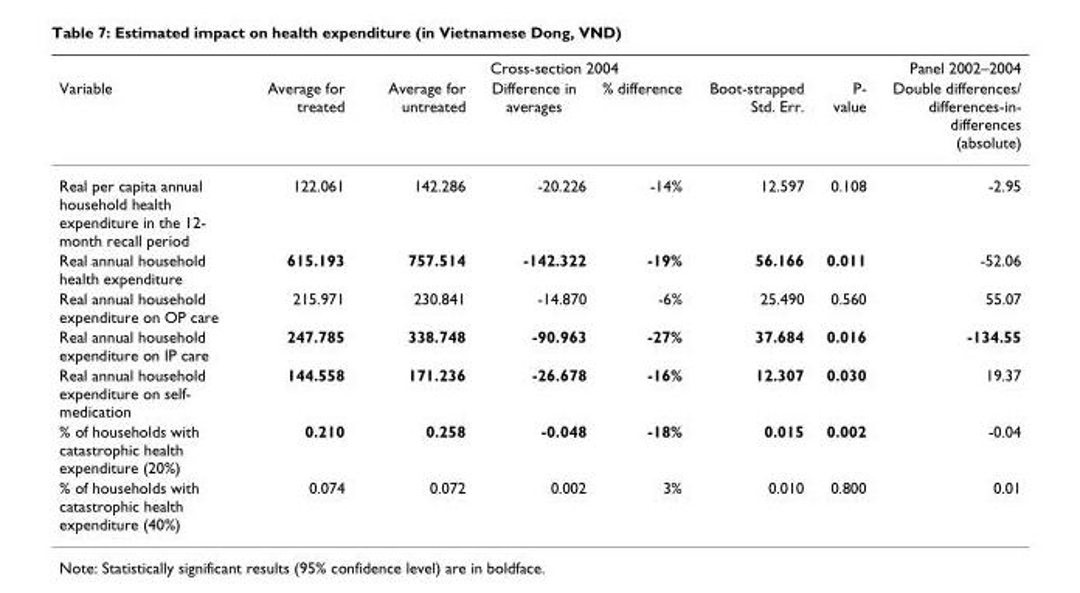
<table><thead><tr><td rowspan="2">Variable</td><td colspan="6">Cross-section 2004</td><td rowspan="2">Panel 2002–2004 Double differences/ differences-in- differences (absolute)</td></tr><tr><td>Average for treated</td><td>Average for untreated</td><td>Difference in averages</td><td>% difference</td><td>Boot-strapped Std. Err.</td><td>P- value</td></tr></thead><tbody><tr><td>Real per capita annual household health expenditure in the 12- month recall period</td><td>122.061</td><td>142.286</td><td>-20.226</td><td>-14%</td><td>12.597</td><td>0.108</td><td>-2.95</td></tr><tr><td>Real annual household health expenditure</td><td>615.193</td><td>757.514</td><td>-142.322</td><td>-19%</td><td>56.166</td><td>0.011</td><td>-52.06</td></tr><tr><td>Real annual household expenditure on OP care</td><td>215.971</td><td>230.841</td><td>-14.870</td><td>-6%</td><td>25.490</td><td>0.560</td><td>55.07</td></tr><tr><td>Real annual household expenditure on IP care</td><td>247.785</td><td>338.748</td><td>-90.963</td><td>-27%</td><td>37.684</td><td>0.016</td><td>-134.55</td></tr><tr><td>Real annual household expenditure on self- medication</td><td>144.558</td><td>171.236</td><td>-26.678</td><td>-16%</td><td>12.307</td><td>0.030</td><td>19.37</td></tr><tr><td>% of households with catastrophic health expenditure (20%)</td><td>0.210</td><td>0.258</td><td>-0.048</td><td>-18%</td><td>0.015</td><td>0.002</td><td>-0.04</td></tr><tr><td>% of households with catastrophic health expenditure (40%)</td><td>0.074</td><td>0.072</td><td>0.002</td><td>3%</td><td>0.010</td><td>0.800</td><td>0.01</td></tr></tbody></table>